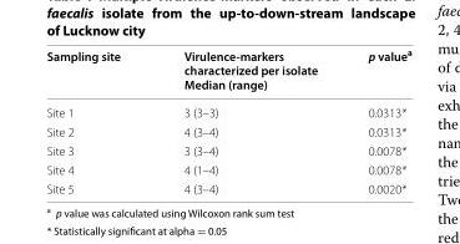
<table><thead><tr><td>Sampling site</td><td>Virulence‑markers characterized per isolate Median (range)</td><td>p value<sup>a</sup></td></tr></thead><tbody><tr><td>Site 1</td><td>3 (3–3)</td><td>0.0313*</td></tr><tr><td>Site 2</td><td>4 (3–4)</td><td>0.0313*</td></tr><tr><td>Site 3</td><td>3 (3–4)</td><td>0.0078*</td></tr><tr><td>Site 4</td><td>4 (1–4)</td><td>0.0078*</td></tr><tr><td>Site 5</td><td>4 (3–4)</td><td>0.0020*</td></tr></tbody></table>